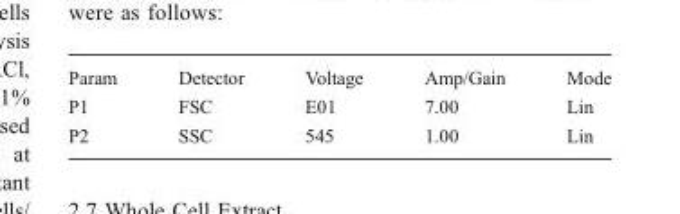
<table><tbody><tr><td>Param</td><td>Detector</td><td>Voltage</td><td>Amp/Gain</td><td>Mode</td></tr><tr><td>P1</td><td>FSC</td><td>E01</td><td>7.00</td><td>Lin</td></tr><tr><td>P2</td><td>SSC</td><td>545</td><td>1.00</td><td>Lin</td></tr></tbody></table>